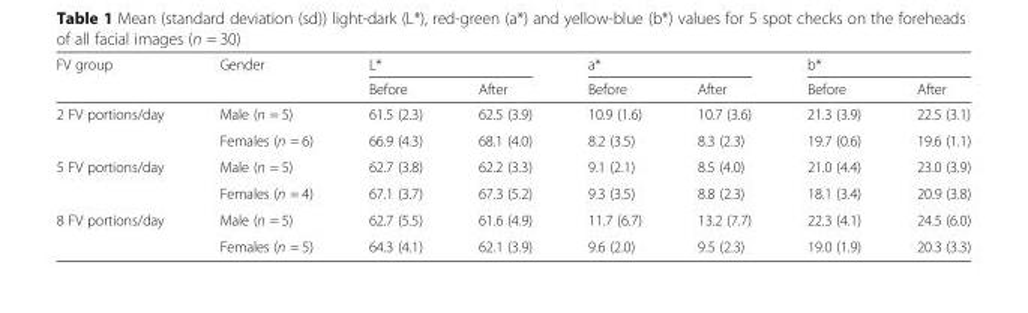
<table><thead><tr><td rowspan="2">FV group</td><td rowspan="2">Gender</td><td colspan="2">L*</td><td colspan="2">a*</td><td colspan="2">b*</td></tr><tr><td>Before</td><td>After</td><td>Before</td><td>After</td><td>Before</td><td>After</td></tr></thead><tbody><tr><td rowspan="2">2 FV portions/day</td><td>Male (n = 5)</td><td>61.5 (2.3)</td><td>62.5 (3.9)</td><td>10.9 (1.6)</td><td>10.7 (3.6)</td><td>21.3 (3.9)</td><td>22.5 (3.1)</td></tr><tr><td>Females (n = 6)</td><td>66.9 (4.3)</td><td>68.1 (4.0)</td><td>8.2 (3.5)</td><td>8.3 (2.3)</td><td>19.7 (0.6)</td><td>19.6 (1.1)</td></tr><tr><td rowspan="2">5 FV portions/day</td><td>Male (n = 5)</td><td>62.7 (3.8)</td><td>62.2 (3.3)</td><td>9.1 (2.1)</td><td>8.5 (4.0)</td><td>21.0 (4.4)</td><td>23.0 (3.9)</td></tr><tr><td>Females (n = 4)</td><td>67.1 (3.7)</td><td>67.3 (5.2)</td><td>9.3 (3.5)</td><td>8.8 (2.3)</td><td>18.1 (3.4)</td><td>20.9 (3.8)</td></tr><tr><td rowspan="2">8 FV portions/day</td><td>Male (n = 5)</td><td>62.7 (5.5)</td><td>61.6 (4.9)</td><td>11.7 (6.7)</td><td>13.2 (7.7)</td><td>22.3 (4.1)</td><td>24.5 (6.0)</td></tr><tr><td>Females (n = 5)</td><td>64.3 (4.1)</td><td>62.1 (3.9)</td><td>9.6 (2.0)</td><td>9.5 (2.3)</td><td>19.0 (1.9)</td><td>20.3 (3.3)</td></tr></tbody></table>